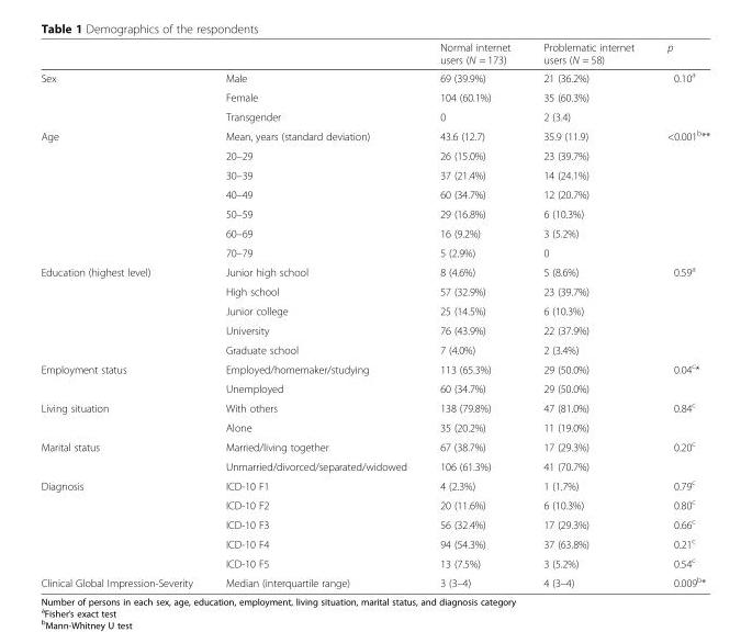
<table><thead><tr><td></td><td></td><td>Normal internet users (N = 173)</td><td>Problematic internet users (N = 58)</td><td>p</td></tr></thead><tbody><tr><td rowspan="3">Sex</td><td>Male</td><td>69 (39.9%)</td><td>21 (36.2%)</td><td>0.10<sup>a</sup></td></tr><tr><td>Female</td><td>104 (60.1%)</td><td>35 (60.3%)</td><td></td></tr><tr><td>Transgender</td><td>0</td><td>2 (3.4)</td><td></td></tr><tr><td rowspan="7">Age</td><td>Mean, years (standard deviation)</td><td>43.6 (12.7)</td><td>35.9 (11.9)</td><td>&lt;0.001<sup>b</sup>**</td></tr><tr><td>20–29</td><td>26 (15.0%)</td><td>23 (39.7%)</td><td></td></tr><tr><td>30–39</td><td>37 (21.4%)</td><td>14 (24.1%)</td><td></td></tr><tr><td>40–49</td><td>60 (34.7%)</td><td>12 (20.7%)</td><td></td></tr><tr><td>50–59</td><td>29 (16.8%)</td><td>6 (10.3%)</td><td></td></tr><tr><td>60–69</td><td>16 (9.2%)</td><td>3 (5.2%)</td><td></td></tr><tr><td>70–79</td><td>5 (2.9%)</td><td>0</td><td></td></tr><tr><td rowspan="5">Education (highest level)</td><td>Junior high school</td><td>8 (4.6%)</td><td>5 (8.6%)</td><td>0.59<sup>a</sup></td></tr><tr><td>High school</td><td>57 (32.9%)</td><td>23 (39.7%)</td><td></td></tr><tr><td>Junior college</td><td>25 (14.5%)</td><td>6 (10.3%)</td><td></td></tr><tr><td>University</td><td>76 (43.9%)</td><td>22 (37.9%)</td><td></td></tr><tr><td>Graduate school</td><td>7 (4.0%)</td><td>2 (3.4%)</td><td></td></tr><tr><td rowspan="2">Employment status</td><td>Employed/homemaker/studying</td><td>113 (65.3%)</td><td>29 (50.0%)</td><td>0.04<sup>c</sup>*</td></tr><tr><td>Unemployed</td><td>60 (34.7%)</td><td>29 (50.0%)</td><td></td></tr><tr><td rowspan="2">Living situation</td><td>With others</td><td>138 (79.8%)</td><td>47 (81.0%)</td><td>0.84<sup>c</sup></td></tr><tr><td>Alone</td><td>35 (20.2%)</td><td>11 (19.0%)</td><td></td></tr><tr><td rowspan="2">Marital status</td><td>Married/living together</td><td>67 (38.7%)</td><td>17 (29.3%)</td><td>0.20<sup>c</sup></td></tr><tr><td>Unmarried/divorced/separated/widowed</td><td>106 (61.3%)</td><td>41 (70.7%)</td><td></td></tr><tr><td rowspan="5">Diagnosis</td><td>ICD-10 F1</td><td>4 (2.3%)</td><td>1 (1.7%)</td><td>0.79<sup>c</sup></td></tr><tr><td>ICD-10 F2</td><td>20 (11.6%)</td><td>6 (10.3%)</td><td>0.80<sup>c</sup></td></tr><tr><td>ICD-10 F3</td><td>56 (32.4%)</td><td>17 (29.3%)</td><td>0.66<sup>c</sup></td></tr><tr><td>ICD-10 F4</td><td>94 (54.3%)</td><td>37 (63.8%)</td><td>0.21<sup>c</sup></td></tr><tr><td>ICD-10 F5</td><td>13 (7.5%)</td><td>3 (5.2%)</td><td>0.54<sup>c</sup></td></tr><tr><td>Clinical Global Impression-Severity</td><td>Median (interquartile range)</td><td>3 (3–4)</td><td>4 (3–4)</td><td>0.009<sup>b</sup>*</td></tr></tbody></table>